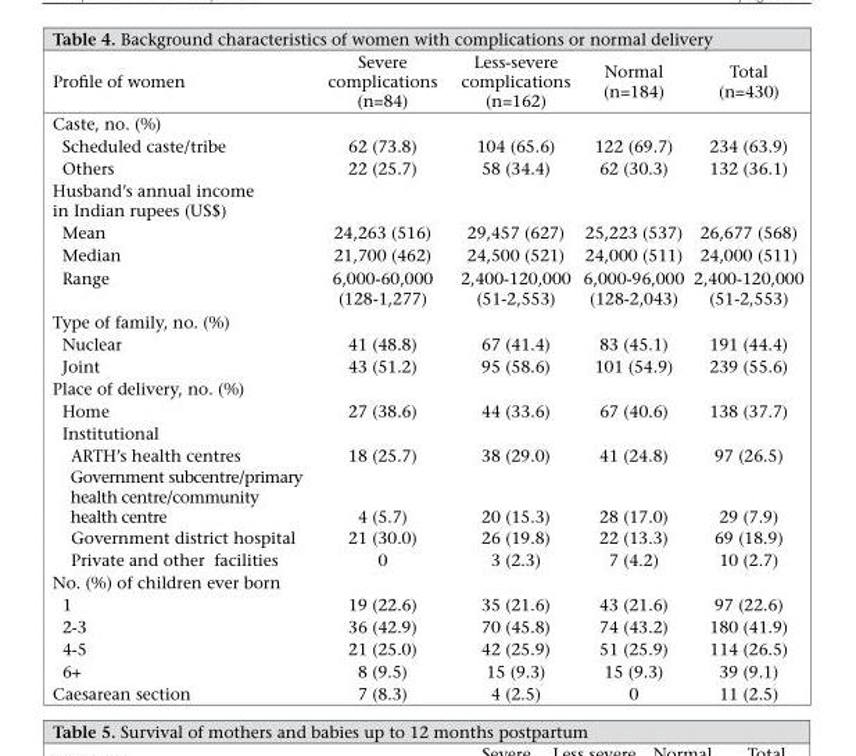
<table><thead><tr><td>Profile of women</td><td>Severe complications (n=84)</td><td>Less-severe complications (n=162)</td><td>Normal (n=184)</td><td>Total (n=430)</td></tr></thead><tbody><tr><td colspan="5">Caste, no. (%)</td></tr><tr><td>Scheduled caste/tribe</td><td>62 (73.8)</td><td>104 (65.6)</td><td>122 (69.7)</td><td>234 (63.9)</td></tr><tr><td>Others</td><td>22 (25.7)</td><td>58 (34.4)</td><td>62 (30.3)</td><td>132 (36.1)</td></tr><tr><td colspan="5">Husband’s annual income in Indian rupees (US$)</td></tr><tr><td>Mean</td><td>24,263 (516)</td><td>29,457 (627)</td><td>25,223 (537)</td><td>26,677 (568)</td></tr><tr><td>Median</td><td>21,700 (462)</td><td>24,500 (521)</td><td>24,000 (511)</td><td>24,000 (511)</td></tr><tr><td>Range</td><td>6,000-60,000 (128-1,277)</td><td>2,400-120,000 (51-2,553)</td><td>6,000-96,000 (128-2,043)</td><td>2,400-120,000 (51-2,553)</td></tr><tr><td colspan="5">Type of family, no. (%)</td></tr><tr><td>Nuclear</td><td>41 (48.8)</td><td>67 (41.4)</td><td>83 (45.1)</td><td>191 (44.4)</td></tr><tr><td>Joint</td><td>43 (51.2)</td><td>95 (58.6)</td><td>101 (54.9)</td><td>239 (55.6)</td></tr><tr><td colspan="5">Place of delivery, no. (%)</td></tr><tr><td>Home</td><td>27 (38.6)</td><td>44 (33.6)</td><td>67 (40.6)</td><td>138 (37.7)</td></tr><tr><td colspan="5">Institutional</td></tr><tr><td>ARTH’s health centres</td><td>18 (25.7)</td><td>38 (29.0)</td><td>41 (24.8)</td><td>97 (26.5)</td></tr><tr><td>Government subcentre/primary health centre/community health centre</td><td>4 (5.7)</td><td>20 (15.3)</td><td>28 (17.0)</td><td>29 (7.9)</td></tr><tr><td>Government district hospital</td><td>21 (30.0)</td><td>26 (19.8)</td><td>22 (13.3)</td><td>69 (18.9)</td></tr><tr><td>Private and other facilities</td><td>0</td><td>3 (2.3)</td><td>7 (4.2)</td><td>10 (2.7)</td></tr><tr><td colspan="5">No. (%) of children ever born</td></tr><tr><td>1</td><td>19 (22.6)</td><td>35 (21.6)</td><td>43 (21.6)</td><td>97 (22.6)</td></tr><tr><td>2-3</td><td>36 (42.9)</td><td>70 (45.8)</td><td>74 (43.2)</td><td>180 (41.9)</td></tr><tr><td>4-5</td><td>21 (25.0)</td><td>42 (25.9)</td><td>51 (25.9)</td><td>114 (26.5)</td></tr><tr><td>6+</td><td>8 (9.5)</td><td>15 (9.3)</td><td>15 (9.3)</td><td>39 (9.1)</td></tr><tr><td>Caesarean section</td><td>7 (8.3)</td><td>4 (2.5)</td><td>0</td><td>11 (2.5)</td></tr></tbody></table>